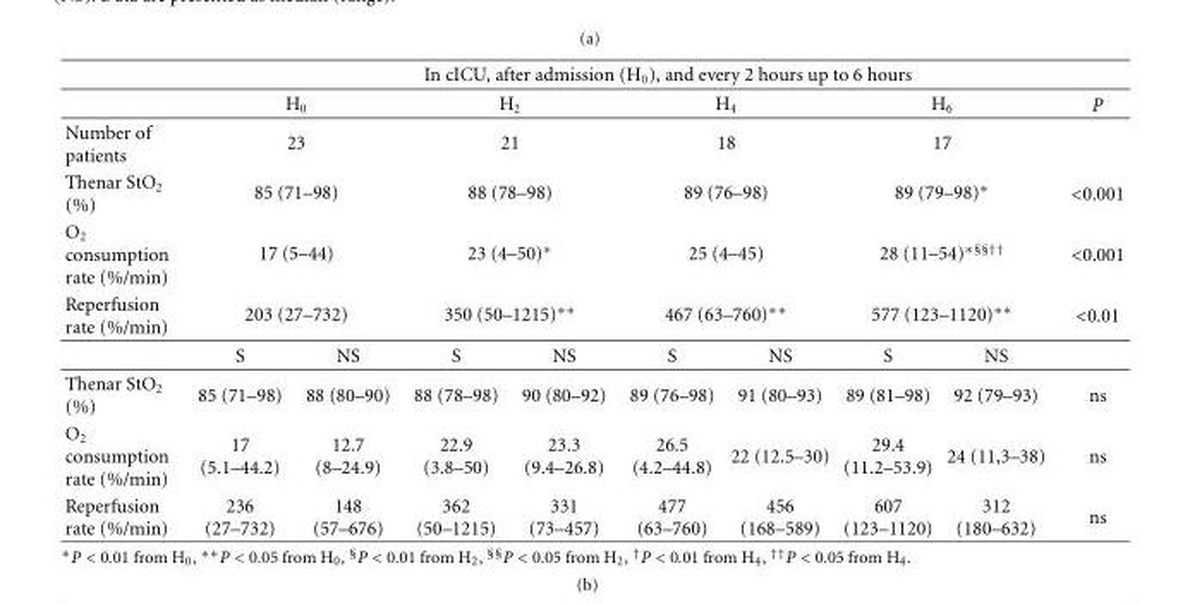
<table><thead><tr><td></td><td colspan="9">In cICU, after admission (H0), and every 2 hours up to 6 hours</td></tr></thead><tbody><tr><td></td><td colspan="2">H0</td><td colspan="2">H2</td><td colspan="2">H4</td><td colspan="2">H6</td><td>P</td></tr><tr><td>Number of patients</td><td colspan="2">23</td><td colspan="2">21</td><td colspan="2">18</td><td colspan="2">17</td><td></td></tr><tr><td>Thenar StO2 (%)</td><td colspan="2">85 (71–98)</td><td colspan="2">88 (78–98)</td><td colspan="2">89 (76–98)</td><td colspan="2">89 (79–98)∗</td><td>&lt;0.001</td></tr><tr><td>O2 consumption rate (%/min)</td><td colspan="2">17 (5–44)</td><td colspan="2">23 (4–50)∗</td><td colspan="2">25 (4–45)</td><td colspan="2">28 (11–54)∗§§††</td><td>&lt;0.001</td></tr><tr><td rowspan="2">Reperfusion rate (%/min)</td><td colspan="2">203 (27–732)</td><td colspan="2">350 (50–1215)∗∗</td><td colspan="2">467 (63–760)∗∗</td><td colspan="2">577 (123–1120)∗∗</td><td>&lt;0.01</td></tr><tr><td>S</td><td>NS</td><td>S</td><td>NS</td><td>S</td><td>NS</td><td>S</td><td>NS</td><td></td></tr><tr><td>Thenar StO2 (%)</td><td>85 (71–98)</td><td>88 (80–90)</td><td>88 (78–98)</td><td>90 (80–92)</td><td>89 (76–98)</td><td>91 (80–93)</td><td>89 (81–98)</td><td>92 (79–93)</td><td>ns</td></tr><tr><td>O2 consumption rate (%/min)</td><td>17 (5.1–44.2)</td><td>12.7 (8–24.9)</td><td>22.9 (3.8–50)</td><td>23.3 (9.4–26.8)</td><td>26.5 (4.2–44.8)</td><td>22 (12.5–30)</td><td>29.4 (11.2–53.9)</td><td>24 (11,3–38)</td><td>ns</td></tr><tr><td>Reperfusion rate (%/min)</td><td>236 (27–732)</td><td>148 (57–676)</td><td>362 (50–1215)</td><td>331 (73–457)</td><td>477 (63–760)</td><td>456 (168–589)</td><td>607 (123–1120)</td><td>312 (180–632)</td><td>ns</td></tr></tbody></table>